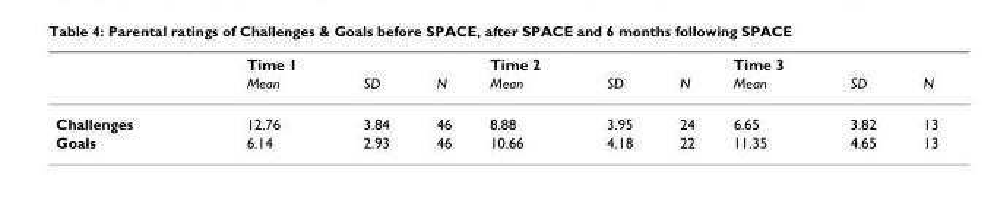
<table><thead><tr><td rowspan="2"></td><td rowspan="2">Time 1 Mean</td><td rowspan="2">SD</td><td rowspan="2">N</td><td rowspan="2">Time 2 Mean</td><td rowspan="2">SD</td><td rowspan="2">N</td><td rowspan="2">Time 3 Mean</td><td rowspan="2">SD</td><td rowspan="2">N</td></tr><tr></tr></thead><tbody><tr><td>Challenges</td><td>12.76</td><td>3.84</td><td>46</td><td>8.88</td><td>3.95</td><td>24</td><td>6.65</td><td>3.82</td><td>13</td></tr><tr><td>Goals</td><td>6.14</td><td>2.93</td><td>46</td><td>10.66</td><td>4.18</td><td>22</td><td>11.35</td><td>4.65</td><td>13</td></tr></tbody></table>